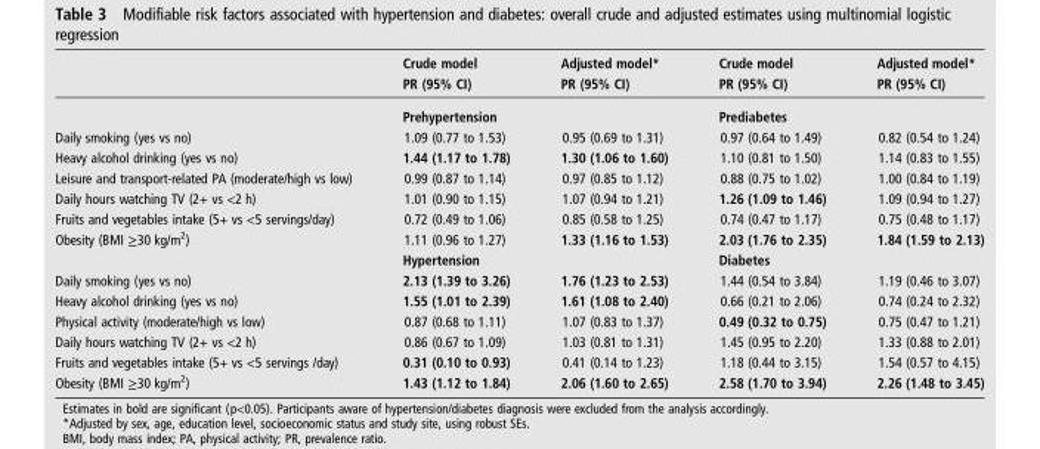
<table><thead><tr><td rowspan="2"></td><td rowspan="2">Crude model PR (95% CI)</td><td rowspan="2">Adjusted model* PR (95% CI)</td><td rowspan="2">Crude model PR (95% CI)</td><td rowspan="2">Adjusted model* PR (95% CI)</td></tr><tr></tr></thead><tbody><tr><td></td><td colspan="2">Prehypertension</td><td colspan="2">Prediabetes</td></tr><tr><td>Daily smoking (yes vs no)</td><td>1.09 (0.77 to 1.53)</td><td>0.95 (0.69 to 1.31)</td><td>0.97 (0.64 to 1.49)</td><td>0.82 (0.54 to 1.24)</td></tr><tr><td>Heavy alcohol drinking (yes vs no)</td><td>1.44 (1.17 to 1.78)</td><td>1.30 (1.06 to 1.60)</td><td>1.10 (0.81 to 1.50)</td><td>1.14 (0.83 to 1.55)</td></tr><tr><td>Leisure and transport-related PA (moderate/high vs low)</td><td>0.99 (0.87 to 1.14)</td><td>0.97 (0.85 to 1.12)</td><td>0.88 (0.75 to 1.02)</td><td>1.00 (0.84 to 1.19)</td></tr><tr><td>Daily hours watching TV (2+ vs &lt;2 h)</td><td>1.01 (0.90 to 1.15)</td><td>1.07 (0.94 to 1.21)</td><td>1.26 (1.09 to 1.46)</td><td>1.09 (0.94 to 1.27)</td></tr><tr><td>Fruits and vegetables intake (5+ vs &lt;5 servings/day)</td><td>0.72 (0.49 to 1.06)</td><td>0.85 (0.58 to 1.25)</td><td>0.74 (0.47 to 1.17)</td><td>0.75 (0.48 to 1.17)</td></tr><tr><td rowspan="2">Obesity (BMI ≥30 kg/m<sup>2</sup>)</td><td>1.11 (0.96 to 1.27)</td><td>1.33 (1.16 to 1.53)</td><td>2.03 (1.76 to 2.35)</td><td>1.84 (1.59 to 2.13)</td></tr><tr><td colspan="2">Hypertension</td><td colspan="2">Diabetes</td></tr><tr><td>Daily smoking (yes vs no)</td><td>2.13 (1.39 to 3.26)</td><td>1.76 (1.23 to 2.53)</td><td>1.44 (0.54 to 3.84)</td><td>1.19 (0.46 to 3.07)</td></tr><tr><td>Heavy alcohol drinking (yes vs no)</td><td>1.55 (1.01 to 2.39)</td><td>1.61 (1.08 to 2.40)</td><td>0.66 (0.21 to 2.06)</td><td>0.74 (0.24 to 2.32)</td></tr><tr><td>Physical activity (moderate/high vs low)</td><td>0.87 (0.68 to 1.11)</td><td>1.07 (0.83 to 1.37)</td><td>0.49 (0.32 to 0.75)</td><td>0.75 (0.47 to 1.21)</td></tr><tr><td>Daily hours watching TV (2+ vs &lt;2 h)</td><td>0.86 (0.67 to 1.09)</td><td>1.03 (0.81 to 1.31)</td><td>1.45 (0.95 to 2.20)</td><td>1.33 (0.88 to 2.01)</td></tr><tr><td>Fruits and vegetables intake (5+ vs &lt;5 servings /day)</td><td>0.31 (0.10 to 0.93)</td><td>0.41 (0.14 to 1.23)</td><td>1.18 (0.44 to 3.15)</td><td>1.54 (0.57 to 4.15)</td></tr><tr><td>Obesity (BMI ≥30 kg/m<sup>2</sup>)</td><td>1.43 (1.12 to 1.84)</td><td>2.06 (1.60 to 2.65)</td><td>2.58 (1.70 to 3.94)</td><td>2.26 (1.48 to 3.45)</td></tr></tbody></table>